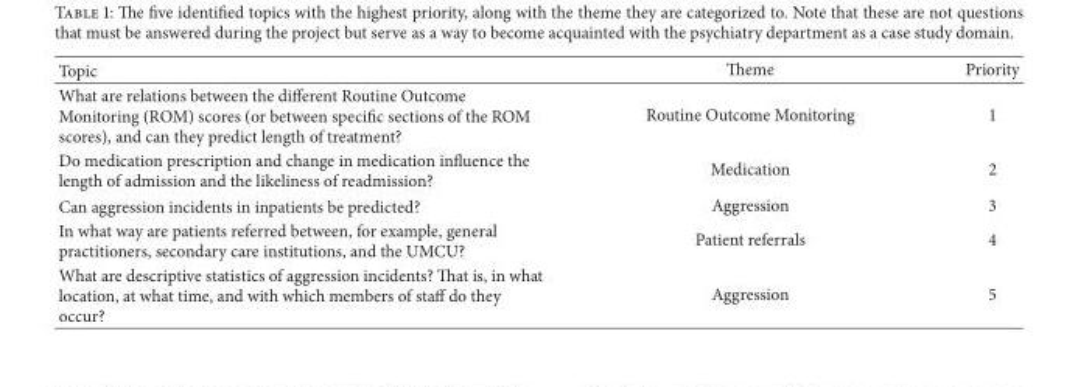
<table><thead><tr><td>Topic</td><td>Theme</td><td>Priority</td></tr></thead><tbody><tr><td>What are relations between the different Routine Outcome Monitoring (ROM) scores (or between specific sections of the ROM scores), and can they predict length of treatment?</td><td>Routine Outcome Monitoring</td><td>1</td></tr><tr><td>Do medication prescription and change in medication influence the length of admission and the likeliness of readmission?</td><td>Medication</td><td>2</td></tr><tr><td>Can aggression incidents in inpatients be predicted?</td><td>Aggression</td><td>3</td></tr><tr><td>In what way are patients referred between, for example, general practitioners, secondary care institutions, and the UMCU?</td><td>Patient referrals</td><td>4</td></tr><tr><td>What are descriptive statistics of aggression incidents? That is, in what location, at what time, and with which members of staff do they occur?</td><td>Aggression</td><td>5</td></tr></tbody></table>